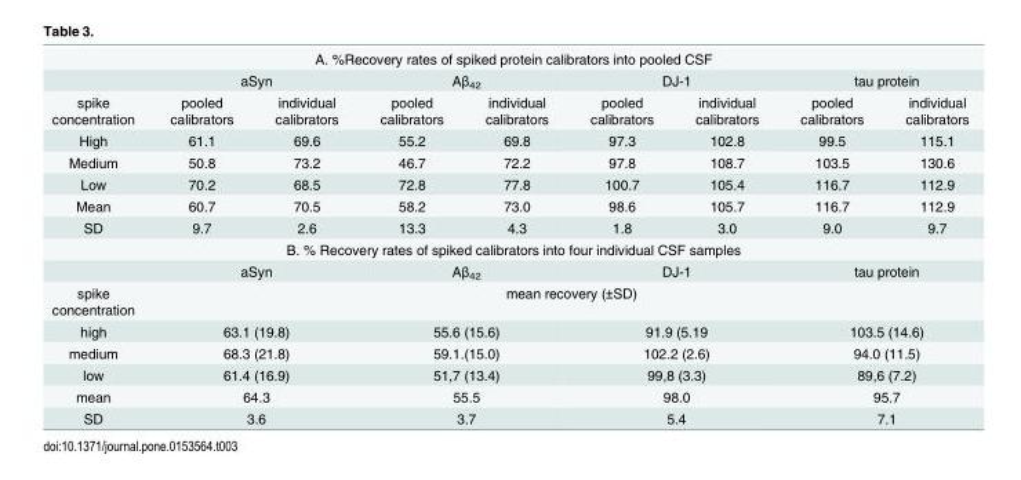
<table><tbody><tr><td colspan="9">A. %Recovery rates of spiked protein calibrators into pooled CSF</td></tr><tr><td></td><td colspan="2">aSyn</td><td colspan="2">Aβ<sub>42</sub></td><td colspan="2">DJ-1</td><td colspan="2">tau protein</td></tr><tr><td>spike concentration</td><td>pooled calibrators</td><td>individual calibrators</td><td>pooled calibrators</td><td>individual calibrators</td><td>pooled calibrators</td><td>individual calibrators</td><td>pooled calibrators</td><td>individual calibrators</td></tr><tr><td>High</td><td>61.1</td><td>69.6</td><td>55.2</td><td>69.8</td><td>97.3</td><td>102.8</td><td>99.5</td><td>115.1</td></tr><tr><td>Medium</td><td>50.8</td><td>73.2</td><td>46.7</td><td>72.2</td><td>97.8</td><td>108.7</td><td>103.5</td><td>130.6</td></tr><tr><td>Low</td><td>70.2</td><td>68.5</td><td>72.8</td><td>77.8</td><td>100.7</td><td>105.4</td><td>116.7</td><td>112.9</td></tr><tr><td>Mean</td><td>60.7</td><td>70.5</td><td>58.2</td><td>73.0</td><td>98.6</td><td>105.7</td><td>116.7</td><td>112.9</td></tr><tr><td>SD</td><td>9.7</td><td>2.6</td><td>13.3</td><td>4.3</td><td>1.8</td><td>3.0</td><td>9.0</td><td>9.7</td></tr><tr><td colspan="9">B. % Recovery rates of spiked calibrators into four individual CSF samples</td></tr><tr><td></td><td colspan="2">aSyn</td><td colspan="2">Aβ<sub>42</sub></td><td colspan="2">DJ-1</td><td colspan="2">tau protein</td></tr><tr><td>spike concentration</td><td colspan="8">mean recovery (±SD)</td></tr><tr><td>high</td><td colspan="2">63.1 (19.8)</td><td colspan="2">55.6 (15.6)</td><td colspan="2">91.9 (5.19</td><td colspan="2">103.5 (14.6)</td></tr><tr><td>medium</td><td colspan="2">68.3 (21.8)</td><td colspan="2">59.1.(15.0)</td><td colspan="2">102.2 (2.6)</td><td colspan="2">94.0 (11.5)</td></tr><tr><td>low</td><td colspan="2">61.4 (16.9)</td><td colspan="2">51,7 (13.4)</td><td colspan="2">99,8 (3.3)</td><td colspan="2">89,6 (7.2)</td></tr><tr><td>mean</td><td colspan="2">64.3</td><td colspan="2">55.5</td><td colspan="2">98.0</td><td colspan="2">95.7</td></tr><tr><td>SD</td><td colspan="2">3.6</td><td colspan="2">3.7</td><td colspan="2">5.4</td><td colspan="2">7.1</td></tr></tbody></table>